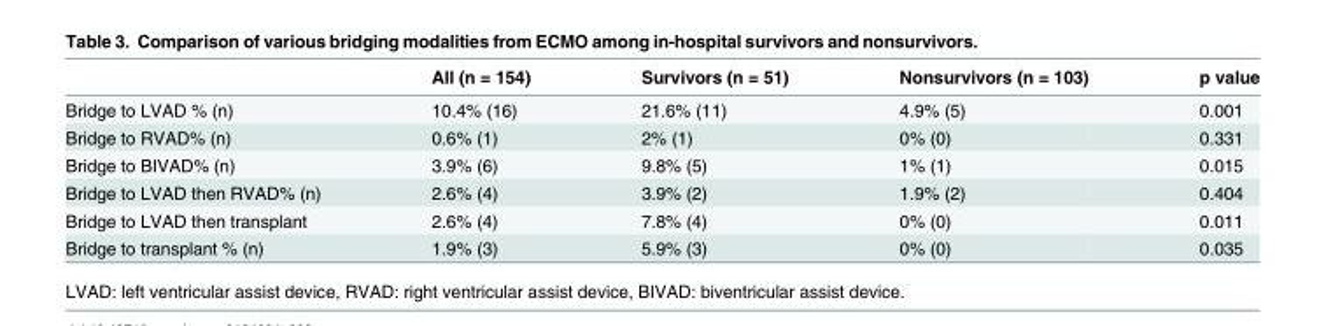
<table><thead><tr><td></td><td>All (n = 154)</td><td>Survivors (n = 51)</td><td>Nonsurvivors (n = 103)</td><td>p value</td></tr></thead><tbody><tr><td>Bridge to LVAD % (n)</td><td>10.4% (16)</td><td>21.6% (11)</td><td>4.9% (5)</td><td>0.001</td></tr><tr><td>Bridge to RVAD% (n)</td><td>0.6% (1)</td><td>2% (1)</td><td>0% (0)</td><td>0.331</td></tr><tr><td>Bridge to BIVAD% (n)</td><td>3.9% (6)</td><td>9.8% (5)</td><td>1% (1)</td><td>0.015</td></tr><tr><td>Bridge to LVAD then RVAD% (n)</td><td>2.6% (4)</td><td>3.9% (2)</td><td>1.9% (2)</td><td>0.404</td></tr><tr><td>Bridge to LVAD then transplant</td><td>2.6% (4)</td><td>7.8% (4)</td><td>0% (0)</td><td>0.011</td></tr><tr><td>Bridge to transplant % (n)</td><td>1.9% (3)</td><td>5.9% (3)</td><td>0% (0)</td><td>0.035</td></tr></tbody></table>